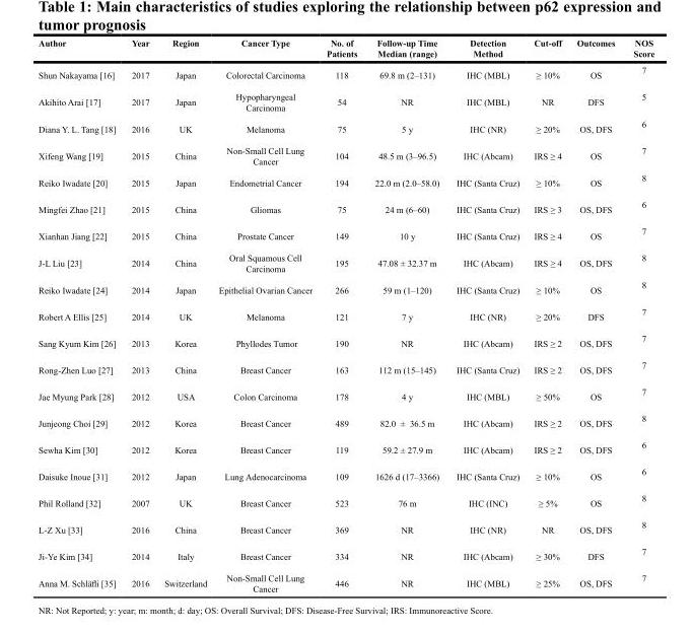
<table><thead><tr><td>Author</td><td>Year</td><td>Region</td><td>Cancer Type</td><td>No. of Patients</td><td>Follow-up Time Median (range)</td><td>Detection Method</td><td>Cut-off</td><td>Outcomes</td><td>NOS Score</td></tr></thead><tbody><tr><td>Shun Nakayama [16]</td><td>2017</td><td>Japan</td><td>Colorectal Carcinoma</td><td>118</td><td>69.8 m (2–131)</td><td>IHC (MBL)</td><td>≥ 10%</td><td>OS</td><td>7</td></tr><tr><td>Akihito Arai [17]</td><td>2017</td><td>Japan</td><td>Hypopharyngeal Carcinoma</td><td>54</td><td>NR</td><td>IHC (MBL)</td><td>NR</td><td>DFS</td><td>5</td></tr><tr><td>Diana Y. L. Tang [18]</td><td>2016</td><td>UK</td><td>Melanoma</td><td>75</td><td>5 y</td><td>IHC (NR)</td><td>≥ 20%</td><td>OS, DFS</td><td>6</td></tr><tr><td>Xifeng Wang [19]</td><td>2015</td><td>China</td><td>Non-Small Cell Lung Cancer</td><td>104</td><td>48.5 m (3–96.5)</td><td>IHC (Abcam)</td><td>IRS ≥ 4</td><td>OS</td><td>7</td></tr><tr><td>Reiko Iwadate [20]</td><td>2015</td><td>Japan</td><td>Endometrial Cancer</td><td>194</td><td>22.0 m (2.0–58.0)</td><td>IHC (Santa Cruz)</td><td>≥ 10%</td><td>OS</td><td>8</td></tr><tr><td>Mingfei Zhao [21]</td><td>2015</td><td>China</td><td>Gliomas</td><td>75</td><td>24 m (6–60)</td><td>IHC (Santa Cruz)</td><td>IRS ≥ 3</td><td>OS, DFS</td><td>6</td></tr><tr><td>Xianhan Jiang [22]</td><td>2015</td><td>China</td><td>Prostate Cancer</td><td>149</td><td>10 y</td><td>IHC (Santa Cruz)</td><td>IRS ≥ 4</td><td>OS</td><td>7</td></tr><tr><td>J-L Liu [23]</td><td>2014</td><td>China</td><td>Oral Squamous Cell Carcinoma</td><td>195</td><td>47.08 ± 32.37 m</td><td>IHC (Abcam)</td><td>IRS ≥ 4</td><td>OS, DFS</td><td>8</td></tr><tr><td>Reiko Iwadate [24]</td><td>2014</td><td>Japan</td><td>Epithelial Ovarian Cancer</td><td>266</td><td>59 m (1–120)</td><td>IHC (Santa Cruz)</td><td>≥ 10%</td><td>OS</td><td>8</td></tr><tr><td>Robert A Ellis [25]</td><td>2014</td><td>UK</td><td>Melanoma</td><td>121</td><td>7 y</td><td>IHC (NR)</td><td>≥ 20%</td><td>DFS</td><td>7</td></tr><tr><td>Sang Kyum Kim [26]</td><td>2013</td><td>Korea</td><td>Phyllodes Tumor</td><td>190</td><td>NR</td><td>IHC (Abcam)</td><td>IRS ≥ 2</td><td>OS, DFS</td><td>7</td></tr><tr><td>Rong-Zhen Luo [27]</td><td>2013</td><td>China</td><td>Breast Cancer</td><td>163</td><td>112 m (15–145)</td><td>IHC (Santa Cruz)</td><td>IRS ≥ 2</td><td>OS, DFS</td><td>7</td></tr><tr><td>Jae Myung Park [28]</td><td>2012</td><td>USA</td><td>Colon Carcinoma</td><td>178</td><td>4 y</td><td>IHC (MBL)</td><td>≥ 50%</td><td>OS</td><td>7</td></tr><tr><td>Junjeong Choi [29]</td><td>2012</td><td>Korea</td><td>Breast Cancer</td><td>489</td><td>82.0 ± 36.5 m</td><td>IHC (Abcam)</td><td>IRS ≥ 2</td><td>OS, DFS</td><td>8</td></tr><tr><td>Sewha Kim [30]</td><td>2012</td><td>Korea</td><td>Breast Cancer</td><td>119</td><td>59.2 ± 27.9 m</td><td>IHC (Abcam)</td><td>IRS ≥ 2</td><td>OS, DFS</td><td>6</td></tr><tr><td>Daisuke Inoue [31]</td><td>2012</td><td>Japan</td><td>Lung Adenocarcinoma</td><td>109</td><td>1626 d (17–3366)</td><td>IHC (Santa Cruz)</td><td>≥ 10%</td><td>OS</td><td>6</td></tr><tr><td>Phil Rolland [32]</td><td>2007</td><td>UK</td><td>Breast Cancer</td><td>523</td><td>76 m</td><td>IHC (INC)</td><td>≥ 5%</td><td>OS</td><td>8</td></tr><tr><td>L-Z Xu [33]</td><td>2016</td><td>China</td><td>Breast Cancer</td><td>369</td><td>NR</td><td>IHC (NR)</td><td>NR</td><td>OS, DFS</td><td>8</td></tr><tr><td>Ji-Ye Kim [34]</td><td>2014</td><td>Italy</td><td>Breast Cancer</td><td>334</td><td>NR</td><td>IHC (Abcam)</td><td>≥ 30%</td><td>DFS</td><td>7</td></tr><tr><td>Anna M. Schläfli [35]</td><td>2016</td><td>Switzerland</td><td>Non-Small Cell Lung Cancer</td><td>446</td><td>NR</td><td>IHC (MBL)</td><td>≥ 25%</td><td>OS, DFS</td><td>7</td></tr></tbody></table>